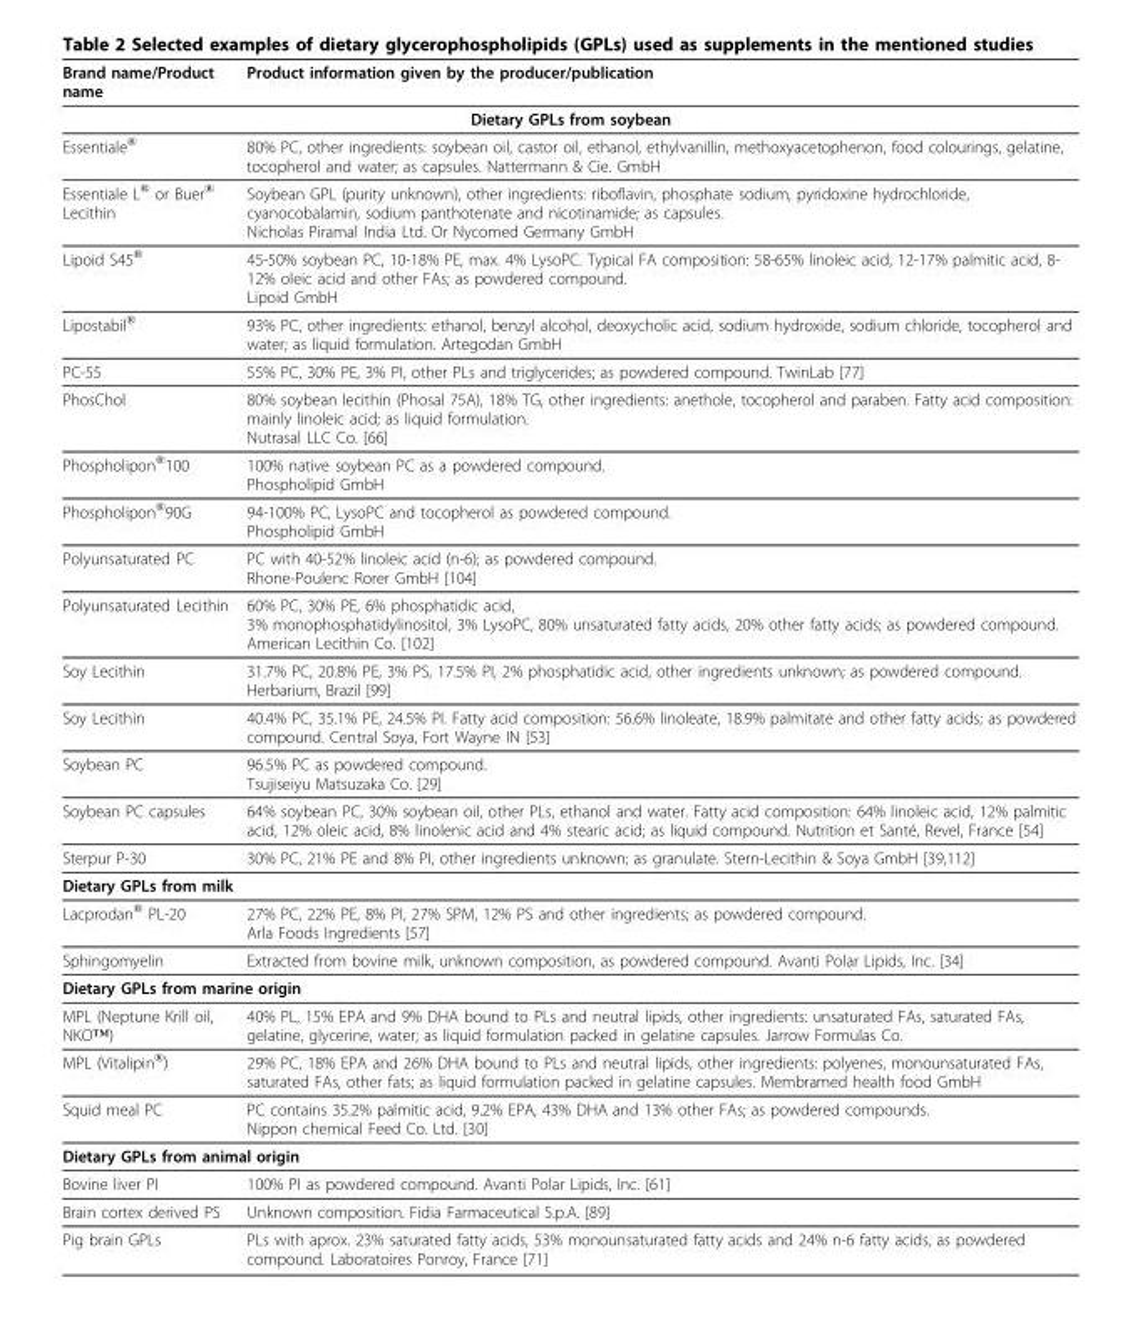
<table><thead><tr><td>Brand name/Product name</td><td>Product information given by the producer/publication</td></tr></thead><tbody><tr><td colspan="2">Dietary GPLs from soybean</td></tr><tr><td>Essentiale<sup>®</sup></td><td>80% PC, other ingredients: soybean oil, castor oil, ethanol, ethylvanillin, methoxyacetophenon, food colourings, gelatine, tocopherol and water; as capsules. Nattermann &amp; Cie. GmbH</td></tr><tr><td>Essentiale L<sup>®</sup> or Buer<sup>®</sup> Lecithin</td><td>Soybean GPL (purity unknown), other ingredients: riboflavin, phosphate sodium, pyridoxine hydrochloride, cyanocobalamin, sodium panthotenate and nicotinamide; as capsules. Nicholas Piramal India Ltd. Or Nycomed Germany GmbH</td></tr><tr><td>Lipoid S45<sup>®</sup></td><td>45-50% soybean PC, 10-18% PE, max. 4% LysoPC. Typical FA composition: 58-65% linoleic acid, 12-17% palmitic acid, 8- 12% oleic acid and other FAs; as powdered compound. Lipoid GmbH</td></tr><tr><td>Lipostabil<sup>®</sup></td><td>93% PC, other ingredients: ethanol, benzyl alcohol, deoxycholic acid, sodium hydroxide, sodium chloride, tocopherol and water; as liquid formulation. Artegodan GmbH</td></tr><tr><td>PC-55</td><td>55% PC, 30% PE, 3% PI, other PLs and triglycerides; as powdered compound. TwinLab [77]</td></tr><tr><td>PhosChol</td><td>80% soybean lecithin (Phosal 75A), 18% TG, other ingredients: anethole, tocopherol and paraben. Fatty acid composition: mainly linoleic acid; as liquid formulation. Nutrasal LLC Co. [66]</td></tr><tr><td>Phospholipon<sup>®</sup>100</td><td>100% native soybean PC as a powdered compound. Phospholipid GmbH</td></tr><tr><td>Phospholipon<sup>®</sup>90G</td><td>94-100% PC, LysoPC and tocopherol as powdered compound. Phospholipid GmbH</td></tr><tr><td>Polyunsaturated PC</td><td>PC with 40-52% linoleic acid (n-6); as powdered compound. Rhone-Poulenc Rorer GmbH [104]</td></tr><tr><td>Polyunsaturated Lecithin</td><td>60% PC, 30% PE, 6% phosphatidic acid, 3% monophosphatidylinositol, 3% LysoPC, 80% unsaturated fatty acids, 20% other fatty acids; as powdered compound. American Lecithin Co. [102]</td></tr><tr><td>Soy Lecithin</td><td>31.7% PC, 20.8% PE, 3% PS, 17.5% PI, 2% phosphatidic acid, other ingredients unknown; as powdered compound. Herbarium, Brazil [99]</td></tr><tr><td>Soy Lecithin</td><td>40.4% PC, 35.1% PE, 24.5% PI. Fatty acid composition: 56.6% linoleate, 18.9% palmitate and other fatty acids; as powdered compound. Central Soya, Fort Wayne IN [53]</td></tr><tr><td>Soybean PC</td><td>96.5% PC as powdered compound. Tsujiseiyu Matsuzaka Co. [29]</td></tr><tr><td>Soybean PC capsules</td><td>64% soybean PC, 30% soybean oil, other PLs, ethanol and water. Fatty acid composition: 64% linoleic acid, 12% palmitic acid, 12% oleic acid, 8% linolenic acid and 4% stearic acid; as liquid compound. Nutrition et Santé, Revel, France [54]</td></tr><tr><td>Sterpur P-30</td><td>30% PC, 21% PE and 8% PI, other ingredients unknown; as granulate. Stern-Lecithin &amp; Soya GmbH [39,112]</td></tr><tr><td colspan="2">Dietary GPLs from milk</td></tr><tr><td>Lacprodan<sup>®</sup> PL-20</td><td>27% PC, 22% PE, 8% PI, 27% SPM, 12% PS and other ingredients; as powdered compound. Arla Foods Ingredients [57]</td></tr><tr><td>Sphingomyelin</td><td>Extracted from bovine milk, unknown composition, as powdered compound. Avanti Polar Lipids, Inc. [34]</td></tr><tr><td colspan="2">Dietary GPLs from marine origin</td></tr><tr><td>MPL (Neptune Krill oil, NKO™)</td><td>40% PL, 15% EPA and 9% DHA bound to PLs and neutral lipids, other ingredients: unsaturated FAs, saturated FAs, gelatine, glycerine, water; as liquid formulation packed in gelatine capsules. Jarrow Formulas Co.</td></tr><tr><td>MPL (Vitalipin<sup>®</sup>)</td><td>29% PC, 18% EPA and 26% DHA bound to PLs and neutral lipids, other ingredients: polyenes, monounsaturated FAs, saturated FAs, other fats; as liquid formulation packed in gelatine capsules. Membramed health food GmbH</td></tr><tr><td>Squid meal PC</td><td>PC contains 35.2% palmitic acid, 9.2% EPA, 43% DHA and 13% other FAs; as powdered compounds. Nippon chemical Feed Co. Ltd. [30]</td></tr><tr><td colspan="2">Dietary GPLs from animal origin</td></tr><tr><td>Bovine liver PI</td><td>100% PI as powdered compound. Avanti Polar Lipids, Inc. [61]</td></tr><tr><td>Brain cortex derived PS</td><td>Unknown composition. Fidia Farmaceutical S.p.A. [89]</td></tr><tr><td>Pig brain GPLs</td><td>PLs with aprox. 23% saturated fatty acids, 53% monounsaturated fatty acids and 24% n-6 fatty acids, as powdered compound. Laboratoires Ponroy, France [71]</td></tr></tbody></table>